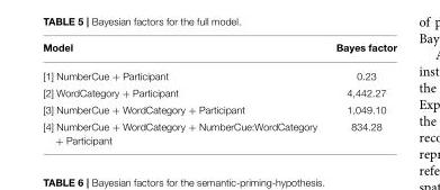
<table><thead><tr><td>Model</td><td>Bayes factor</td></tr></thead><tbody><tr><td>[1] NumberCue + Participant</td><td>0.23</td></tr><tr><td>[2] WordCategory + Participant</td><td>4,442.27</td></tr><tr><td>[3] NumberCue + WordCategory + Participant</td><td>1,049.10</td></tr><tr><td>[4] NumberCue + WordCategory + NumberCue:WordCategory + Participant</td><td>834.28</td></tr></tbody></table>